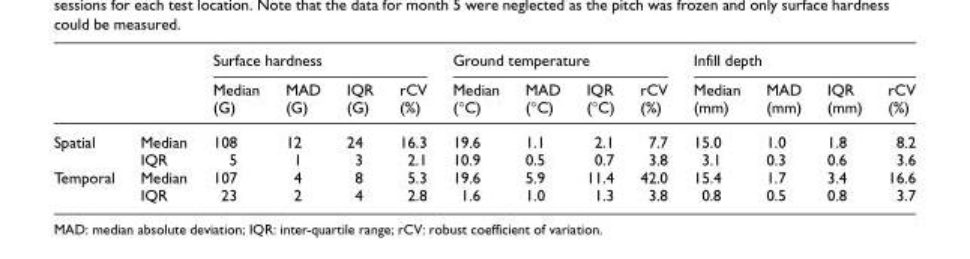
<table><thead><tr><td rowspan="2"></td><td rowspan="2"></td><td colspan="4">Surface hardness</td><td colspan="4">Ground temperature</td><td colspan="4">Infill depth</td></tr><tr><td>Median (G)</td><td>MAD (G)</td><td>IQR (G)</td><td>rCV (%)</td><td>Median (°C)</td><td>MAD (°C)</td><td>IQR (°C)</td><td>rCV (%)</td><td>Median (mm)</td><td>MAD (mm)</td><td>IQR (mm)</td><td>rCV (%)</td></tr></thead><tbody><tr><td rowspan="2">Spatial</td><td>Median</td><td>108</td><td>12</td><td>24</td><td>16.3</td><td>19.6</td><td>1.1</td><td>2.1</td><td>7.7</td><td>15.0</td><td>1.0</td><td>1.8</td><td>8.2</td></tr><tr><td>IQR</td><td>5</td><td>1</td><td>3</td><td>2.1</td><td>10.9</td><td>0.5</td><td>0.7</td><td>3.8</td><td>3.1</td><td>0.3</td><td>0.6</td><td>3.6</td></tr><tr><td rowspan="2">Temporal</td><td>Median</td><td>107</td><td>4</td><td>8</td><td>5.3</td><td>19.6</td><td>5.9</td><td>11.4</td><td>42.0</td><td>15.4</td><td>1.7</td><td>3.4</td><td>16.6</td></tr><tr><td>IQR</td><td>23</td><td>2</td><td>4</td><td>2.8</td><td>1.6</td><td>1.0</td><td>1.3</td><td>3.8</td><td>0.8</td><td>0.5</td><td>0.8</td><td>3.7</td></tr></tbody></table>